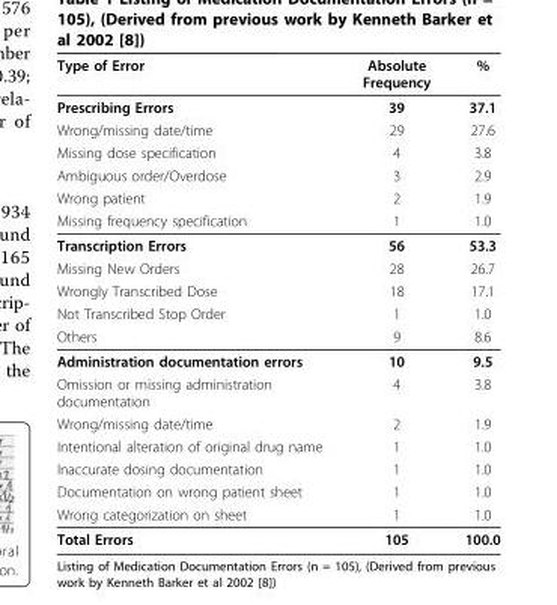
<table><thead><tr><td>Type of Error</td><td>Absolute Frequency</td><td>%</td></tr></thead><tbody><tr><td>Prescribing Errors</td><td>39</td><td>37.1</td></tr><tr><td>Wrong/missing date/time</td><td>29</td><td>27.6</td></tr><tr><td>Missing dose specification</td><td>4</td><td>3.8</td></tr><tr><td>Ambiguous order/Overdose</td><td>3</td><td>2.9</td></tr><tr><td>Wrong patient</td><td>2</td><td>1.9</td></tr><tr><td>Missing frequency specification</td><td>1</td><td>1.0</td></tr><tr><td>Transcription Errors</td><td>56</td><td>53.3</td></tr><tr><td>Missing New Orders</td><td>28</td><td>26.7</td></tr><tr><td>Wrongly Transcribed Dose</td><td>18</td><td>17.1</td></tr><tr><td>Not Transcribed Stop Order</td><td>1</td><td>1.0</td></tr><tr><td>Others</td><td>9</td><td>8.6</td></tr><tr><td>Administration documentation errors</td><td>10</td><td>9.5</td></tr><tr><td>Omission or missing administration documentation</td><td>4</td><td>3.8</td></tr><tr><td>Wrong/missing date/time</td><td>2</td><td>1.9</td></tr><tr><td>Intentional alteration of original drug name</td><td>1</td><td>1.0</td></tr><tr><td>Inaccurate dosing documentation</td><td>1</td><td>1.0</td></tr><tr><td>Documentation on wrong patient sheet</td><td>1</td><td>1.0</td></tr><tr><td>Wrong categorization on sheet</td><td>1</td><td>1.0</td></tr><tr><td>Total Errors</td><td>105</td><td>100.0</td></tr></tbody></table>